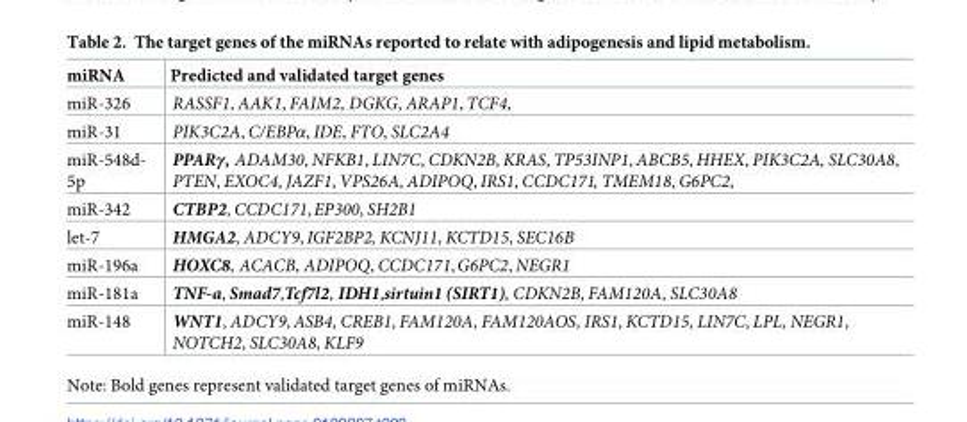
<table><thead><tr><td>miRNA</td><td>Predicted and validated target genes</td></tr></thead><tbody><tr><td>miR-326</td><td>RASSF1, AAK1, FAIM2, DGKG, ARAP1, TCF4,</td></tr><tr><td>miR-31</td><td>PIK3C2A, C/EBPα, IDE, FTO, SLC2A4</td></tr><tr><td>miR-548d- 5p</td><td>PPARγ, ADAM30, NFKB1, LIN7C, CDKN2B, KRAS, TP53INP1, ABCB5, HHEX, PIK3C2A, SLC30A8, PTEN, EXOC4, JAZF1, VPS26A, ADIPOQ, IRS1, CCDC171, TMEM18, G6PC2,</td></tr><tr><td>miR-342</td><td>CTBP2, CCDC171,EP300, SH2B1</td></tr><tr><td>let-7</td><td>HMGA2, ADCY9, IGF2BP2, KCNJ11, KCTD15, SEC16B</td></tr><tr><td>miR-196a</td><td>HOXC8, ACACB, ADIPOQ, CCDC171,G6PC2, NEGR1</td></tr><tr><td>miR-181a</td><td>TNF-a, Smad7,Tcf7l2, IDH1,sirtuin1 (SIRT1), CDKN2B, FAM120A, SLC30A8</td></tr><tr><td>miR-148</td><td>WNT1, ADCY9, ASB4, CREB1, FAM120A, FAM120AOS, IRS1, KCTD15, LIN7C, LPL, NEGR1, NOTCH2, SLC30A8, KLF9</td></tr></tbody></table>